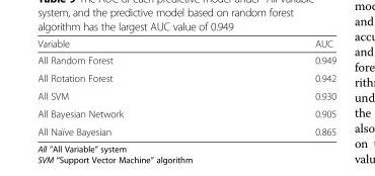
<table><thead><tr><td>Variable</td><td>AUC</td></tr></thead><tbody><tr><td>All Random Forest</td><td>0.949</td></tr><tr><td>All Rotation Forest</td><td>0.942</td></tr><tr><td>All SVM</td><td>0.930</td></tr><tr><td>All Bayesian Network</td><td>0.905</td></tr><tr><td>All Naïve Bayesian</td><td>0.865</td></tr></tbody></table>